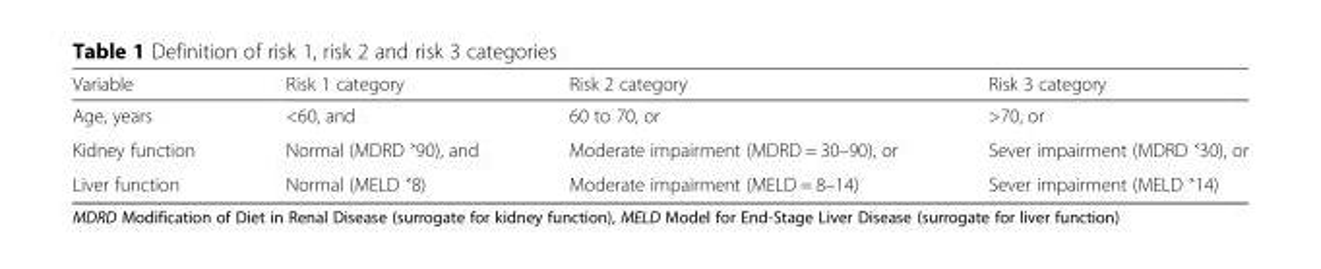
<table><thead><tr><td>Variable</td><td>Risk 1 category</td><td>Risk 2 category</td><td>Risk 3 category</td></tr></thead><tbody><tr><td>Age, years</td><td>&lt;60, and</td><td>60 to 70, or</td><td>&gt;70, or</td></tr><tr><td>Kidney function</td><td>Normal (MDRD ˃90), and</td><td>Moderate impairment (MDRD = 30–90), or</td><td>Sever impairment (MDRD ˂30), or</td></tr><tr><td>Liver function</td><td>Normal (MELD ˂8)</td><td>Moderate impairment (MELD = 8–14)</td><td>Sever impairment (MELD ˃14)</td></tr></tbody></table>